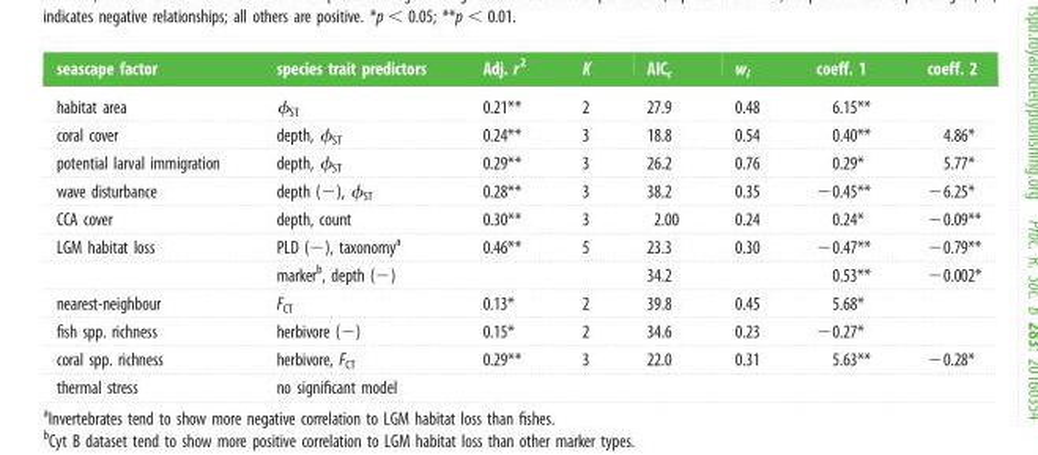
<table><thead><tr><td>seascape factor</td><td>species trait predictors</td><td>Adj. r<sup>2</sup></td><td>K</td><td>AIC<sub>c</sub></td><td>w<sub>i</sub></td><td>coeff. 1</td><td>coeff. 2</td></tr></thead><tbody><tr><td>habitat area</td><td>ϕ<sub>ST</sub></td><td>0.21**</td><td>2</td><td>27.9</td><td>0.48</td><td>6.15**</td><td></td></tr><tr><td>coral cover</td><td>depth, ϕ<sub>ST</sub></td><td>0.24**</td><td>3</td><td>18.8</td><td>0.54</td><td>0.40**</td><td>4.86*</td></tr><tr><td>potential larval immigration</td><td>depth, ϕ<sub>ST</sub></td><td>0.29**</td><td>3</td><td>26.2</td><td>0.76</td><td>0.29*</td><td>5.77*</td></tr><tr><td>wave disturbance</td><td>depth (−), ϕ<sub>ST</sub></td><td>0.28**</td><td>3</td><td>38.2</td><td>0.35</td><td>−0.45**</td><td>−6.25*</td></tr><tr><td>CCA cover</td><td>depth, count</td><td>0.30**</td><td>3</td><td>2.00</td><td>0.24</td><td>0.24*</td><td>−0.09**</td></tr><tr><td rowspan="2">LGM habitat loss</td><td>PLD (−), taxonomy<sup>a</sup></td><td>0.46**</td><td>5</td><td>23.3</td><td>0.30</td><td>−0.47**</td><td>−0.79**</td></tr><tr><td>marker<sup>b</sup>, depth (−)</td><td></td><td></td><td>34.2</td><td></td><td>0.53**</td><td>−0.002*</td></tr><tr><td>nearest-neighbour</td><td>F<sub>CT</sub></td><td>0.13*</td><td>2</td><td>39.8</td><td>0.45</td><td>5.68*</td><td></td></tr><tr><td>fish spp. richness</td><td>herbivore (−)</td><td>0.15*</td><td>2</td><td>34.6</td><td>0.23</td><td>−0.27*</td><td></td></tr><tr><td>coral spp. richness</td><td>herbivore, F<sub>CT</sub></td><td>0.29**</td><td>3</td><td>22.0</td><td>0.31</td><td>5.63**</td><td>−0.28*</td></tr><tr><td>thermal stress</td><td>no significant model</td><td></td><td></td><td></td><td></td><td></td><td></td></tr></tbody></table>